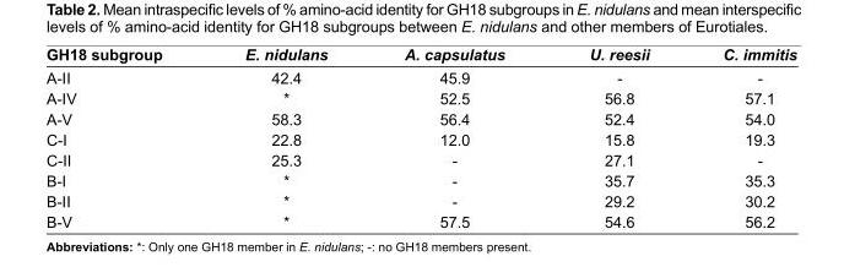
<table><thead><tr><td>GH18 subgroup</td><td>E. nidulans</td><td>A. capsulatus</td><td>U. reesii</td><td>C. immitis</td></tr></thead><tbody><tr><td>A-II</td><td>42.4</td><td>45.9</td><td>-</td><td>-</td></tr><tr><td>A-IV</td><td>*</td><td>52.5</td><td>56.8</td><td>57.1</td></tr><tr><td>A-V</td><td>58.3</td><td>56.4</td><td>52.4</td><td>54.0</td></tr><tr><td>C-I</td><td>22.8</td><td>12.0</td><td>15.8</td><td>19.3</td></tr><tr><td>C-II</td><td>25.3</td><td>-</td><td>27.1</td><td>-</td></tr><tr><td>B-I</td><td>*</td><td>-</td><td>35.7</td><td>35.3</td></tr><tr><td>B-II</td><td>*</td><td>-</td><td>29.2</td><td>30.2</td></tr><tr><td>B-V</td><td>*</td><td>57.5</td><td>54.6</td><td>56.2</td></tr></tbody></table>